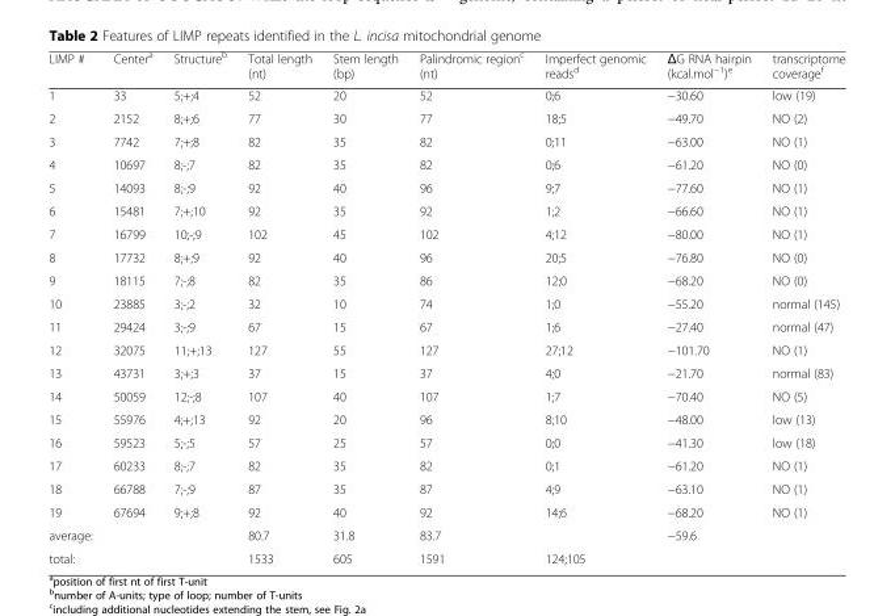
<table><thead><tr><td>LIMP #</td><td>Center<sup>a</sup></td><td>Structure<sup>b</sup></td><td>Total length (nt)</td><td>Stem length (bp)</td><td>Palindromic region<sup>c</sup> (nt)</td><td>Imperfect genomic reads<sup>d</sup></td><td>ΔG RNA hairpin (kcal.mol<sup>−1</sup>)<sup>e</sup></td><td>transcriptome coverage<sup>f</sup></td></tr></thead><tbody><tr><td>1</td><td>33</td><td>5;+;4</td><td>52</td><td>20</td><td>52</td><td>0;6</td><td>−30.60</td><td>low (19)</td></tr><tr><td>2</td><td>2152</td><td>8;+;6</td><td>77</td><td>30</td><td>77</td><td>18;5</td><td>−49.70</td><td>NO (2)</td></tr><tr><td>3</td><td>7742</td><td>7;+;8</td><td>82</td><td>35</td><td>82</td><td>0;11</td><td>−63.00</td><td>NO (1)</td></tr><tr><td>4</td><td>10697</td><td>8;-;7</td><td>82</td><td>35</td><td>82</td><td>0;6</td><td>−61.20</td><td>NO (0)</td></tr><tr><td>5</td><td>14093</td><td>8;-;9</td><td>92</td><td>40</td><td>96</td><td>9;7</td><td>−77.60</td><td>NO (1)</td></tr><tr><td>6</td><td>15481</td><td>7;+;10</td><td>92</td><td>35</td><td>92</td><td>1;2</td><td>−66.60</td><td>NO (1)</td></tr><tr><td>7</td><td>16799</td><td>10;-;9</td><td>102</td><td>45</td><td>102</td><td>4;12</td><td>−80.00</td><td>NO (1)</td></tr><tr><td>8</td><td>17732</td><td>8;+;9</td><td>92</td><td>40</td><td>96</td><td>20;5</td><td>−76.80</td><td>NO (0)</td></tr><tr><td>9</td><td>18115</td><td>7;-;8</td><td>82</td><td>35</td><td>86</td><td>12;0</td><td>−68.20</td><td>NO (0)</td></tr><tr><td>10</td><td>23885</td><td>3;-;2</td><td>32</td><td>10</td><td>74</td><td>1;0</td><td>−55.20</td><td>normal (145)</td></tr><tr><td>11</td><td>29424</td><td>3;-;9</td><td>67</td><td>15</td><td>67</td><td>1;6</td><td>−27.40</td><td>normal (47)</td></tr><tr><td>12</td><td>32075</td><td>11;+;13</td><td>127</td><td>55</td><td>127</td><td>27;12</td><td>−101.70</td><td>NO (1)</td></tr><tr><td>13</td><td>43731</td><td>3;+;3</td><td>37</td><td>15</td><td>37</td><td>4;0</td><td>−21.70</td><td>normal (83)</td></tr><tr><td>14</td><td>50059</td><td>12;-;8</td><td>107</td><td>40</td><td>107</td><td>1;7</td><td>−70.40</td><td>NO (5)</td></tr><tr><td>15</td><td>55976</td><td>4;+;13</td><td>92</td><td>20</td><td>96</td><td>8;10</td><td>−48.00</td><td>low (13)</td></tr><tr><td>16</td><td>59523</td><td>5;-;5</td><td>57</td><td>25</td><td>57</td><td>0;0</td><td>−41.30</td><td>low (18)</td></tr><tr><td>17</td><td>60233</td><td>8;-;7</td><td>82</td><td>35</td><td>82</td><td>0;1</td><td>−61.20</td><td>NO (1)</td></tr><tr><td>18</td><td>66788</td><td>7;-;9</td><td>87</td><td>35</td><td>87</td><td>4;9</td><td>−63.10</td><td>NO (1)</td></tr><tr><td>19</td><td>67694</td><td>9;+;8</td><td>92</td><td>40</td><td>92</td><td>14;6</td><td>−68.20</td><td>NO (1)</td></tr><tr><td>average:</td><td></td><td></td><td>80.7</td><td>31.8</td><td>83.7</td><td></td><td>−59.6</td><td></td></tr><tr><td>total:</td><td></td><td></td><td>1533</td><td>605</td><td>1591</td><td>124;105</td><td></td><td></td></tr></tbody></table>